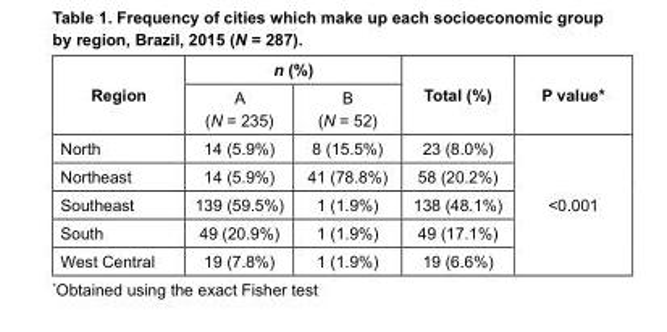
<table><thead><tr><td rowspan="2">Region</td><td colspan="2">n (%)</td><td rowspan="2">Total (%)</td><td rowspan="2">P value*</td></tr><tr><td>A (N = 235)</td><td>B (N = 52)</td></tr></thead><tbody><tr><td>North</td><td>14 (5.9%)</td><td>8 (15.5%)</td><td>23 (8.0%)</td><td rowspan="5">&lt;0.001</td></tr><tr><td>Northeast</td><td>14 (5.9%)</td><td>41 (78.8%)</td><td>58 (20.2%)</td></tr><tr><td>Southeast</td><td>139 (59.5%)</td><td>1 (1.9%)</td><td>138 (48.1%)</td></tr><tr><td>South</td><td>49 (20.9%)</td><td>1 (1.9%)</td><td>49 (17.1%)</td></tr><tr><td>West Central</td><td>19 (7.8%)</td><td>1 (1.9%)</td><td>19 (6.6%)</td></tr></tbody></table>